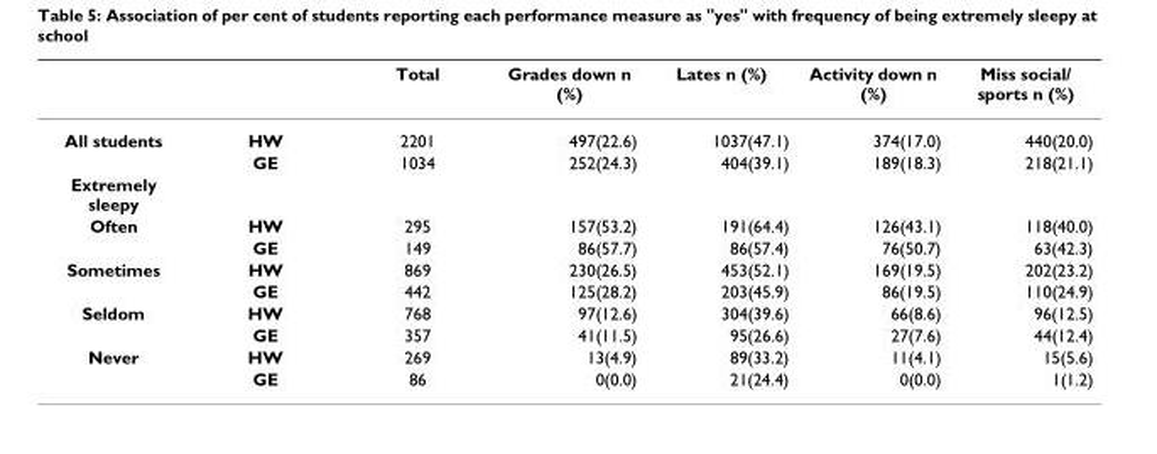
<table><thead><tr><td></td><td></td><td>Total</td><td>Grades down n (%)</td><td>Lates n (%)</td><td>Activity down n (%)</td><td>Miss social/ sports n (%)</td></tr></thead><tbody><tr><td rowspan="2">All students</td><td>HW</td><td>2201</td><td>497(22.6)</td><td>1037(47.1)</td><td>374(17.0)</td><td>440(20.0)</td></tr><tr><td>GE</td><td>1034</td><td>252(24.3)</td><td>404(39.1)</td><td>189(18.3)</td><td>218(21.1)</td></tr><tr><td colspan="7">Extremely sleepy</td></tr><tr><td rowspan="2">Often</td><td>HW</td><td>295</td><td>157(53.2)</td><td>191(64.4)</td><td>126(43.1)</td><td>118(40.0)</td></tr><tr><td>GE</td><td>149</td><td>86(57.7)</td><td>86(57.4)</td><td>76(50.7)</td><td>63(42.3)</td></tr><tr><td rowspan="2">Sometimes</td><td>HW</td><td>869</td><td>230(26.5)</td><td>453(52.1)</td><td>169(19.5)</td><td>202(23.2)</td></tr><tr><td>GE</td><td>442</td><td>125(28.2)</td><td>203(45.9)</td><td>86(19.5)</td><td>110(24.9)</td></tr><tr><td rowspan="2">Seldom</td><td>HW</td><td>768</td><td>97(12.6)</td><td>304(39.6)</td><td>66(8.6)</td><td>96(12.5)</td></tr><tr><td>GE</td><td>357</td><td>41(11.5)</td><td>95(26.6)</td><td>27(7.6)</td><td>44(12.4)</td></tr><tr><td rowspan="2">Never</td><td>HW</td><td>269</td><td>13(4.9)</td><td>89(33.2)</td><td>11(4.1)</td><td>15(5.6)</td></tr><tr><td>GE</td><td>86</td><td>0(0.0)</td><td>21(24.4)</td><td>0(0.0)</td><td>1(1.2)</td></tr></tbody></table>